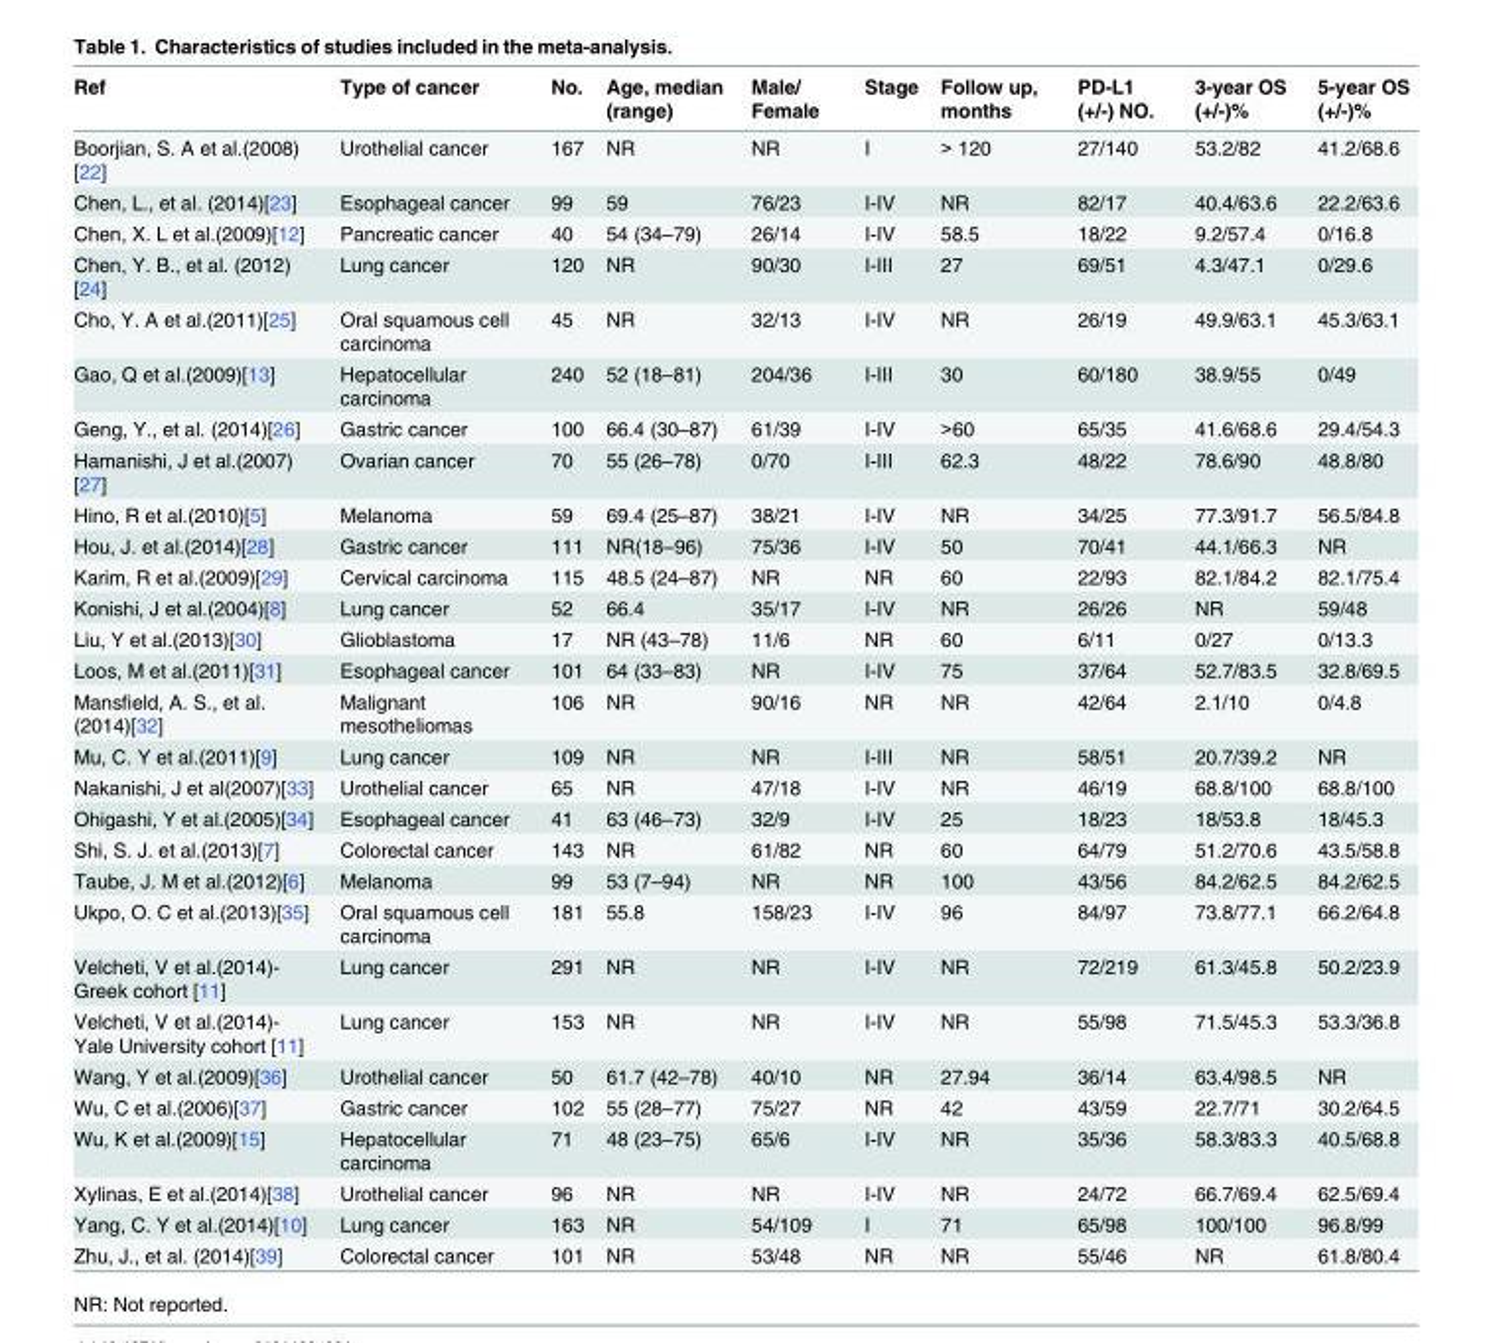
<table><thead><tr><td>Ref</td><td>Type of cancer</td><td>No.</td><td>Age, median (range)</td><td>Male/ Female</td><td>Stage</td><td>Follow up, months</td><td>PD-L1 (+/-) NO.</td><td>3-year OS (+/-)%</td><td>5-year OS (+/-)%</td></tr></thead><tbody><tr><td>Boorjian, S. A et al.(2008) [22]</td><td>Urothelial cancer</td><td>167</td><td>NR</td><td>NR</td><td>I</td><td>&gt; 120</td><td>27/140</td><td>53.2/82</td><td>41.2/68.6</td></tr><tr><td>Chen, L., et al. (2014)[23]</td><td>Esophageal cancer</td><td>99</td><td>59</td><td>76/23</td><td>I-IV</td><td>NR</td><td>82/17</td><td>40.4/63.6</td><td>22.2/63.6</td></tr><tr><td>Chen, X. L et al.(2009)[12]</td><td>Pancreatic cancer</td><td>40</td><td>54 (34–79)</td><td>26/14</td><td>I-IV</td><td>58.5</td><td>18/22</td><td>9.2/57.4</td><td>0/16.8</td></tr><tr><td>Chen, Y. B., et al. (2012) [24]</td><td>Lung cancer</td><td>120</td><td>NR</td><td>90/30</td><td>I-III</td><td>27</td><td>69/51</td><td>4.3/47.1</td><td>0/29.6</td></tr><tr><td>Cho, Y. A et al.(2011)[25]</td><td>Oral squamous cell carcinoma</td><td>45</td><td>NR</td><td>32/13</td><td>I-IV</td><td>NR</td><td>26/19</td><td>49.9/63.1</td><td>45.3/63.1</td></tr><tr><td>Gao, Q et al.(2009)[13]</td><td>Hepatocellular carcinoma</td><td>240</td><td>52 (18–81)</td><td>204/36</td><td>I-III</td><td>30</td><td>60/180</td><td>38.9/55</td><td>0/49</td></tr><tr><td>Geng, Y., et al. (2014)[26]</td><td>Gastric cancer</td><td>100</td><td>66.4 (30–87)</td><td>61/39</td><td>I-IV</td><td>&gt;60</td><td>65/35</td><td>41.6/68.6</td><td>29.4/54.3</td></tr><tr><td>Hamanishi, J et al.(2007) [27]</td><td>Ovarian cancer</td><td>70</td><td>55 (26–78)</td><td>0/70</td><td>I-III</td><td>62.3</td><td>48/22</td><td>78.6/90</td><td>48.8/80</td></tr><tr><td>Hino, R et al.(2010)[5]</td><td>Melanoma</td><td>59</td><td>69.4 (25–87)</td><td>38/21</td><td>I-IV</td><td>NR</td><td>34/25</td><td>77.3/91.7</td><td>56.5/84.8</td></tr><tr><td>Hou, J. et al.(2014)[28]</td><td>Gastric cancer</td><td>111</td><td>NR(18–96)</td><td>75/36</td><td>I-IV</td><td>50</td><td>70/41</td><td>44.1/66.3</td><td>NR</td></tr><tr><td>Karim, R et al.(2009)[29]</td><td>Cervical carcinoma</td><td>115</td><td>48.5 (24–87)</td><td>NR</td><td>NR</td><td>60</td><td>22/93</td><td>82.1/84.2</td><td>82.1/75.4</td></tr><tr><td>Konishi, J et al.(2004)[8]</td><td>Lung cancer</td><td>52</td><td>66.4</td><td>35/17</td><td>I-IV</td><td>NR</td><td>26/26</td><td>NR</td><td>59/48</td></tr><tr><td>Liu, Y et al.(2013)[30]</td><td>Glioblastoma</td><td>17</td><td>NR (43–78)</td><td>11/6</td><td>NR</td><td>60</td><td>6/11</td><td>0/27</td><td>0/13.3</td></tr><tr><td>Loos, M et al.(2011)[31]</td><td>Esophageal cancer</td><td>101</td><td>64 (33–83)</td><td>NR</td><td>I-IV</td><td>75</td><td>37/64</td><td>52.7/83.5</td><td>32.8/69.5</td></tr><tr><td>Mansfield, A. S., et al. (2014)[32]</td><td>Malignant mesotheliomas</td><td>106</td><td>NR</td><td>90/16</td><td>NR</td><td>NR</td><td>42/64</td><td>2.1/10</td><td>0/4.8</td></tr><tr><td>Mu, C. Y et al.(2011)[9]</td><td>Lung cancer</td><td>109</td><td>NR</td><td>NR</td><td>I-III</td><td>NR</td><td>58/51</td><td>20.7/39.2</td><td>NR</td></tr><tr><td>Nakanishi, J et al(2007)[33]</td><td>Urothelial cancer</td><td>65</td><td>NR</td><td>47/18</td><td>I-IV</td><td>NR</td><td>46/19</td><td>68.8/100</td><td>68.8/100</td></tr><tr><td>Ohigashi, Y et al.(2005)[34]</td><td>Esophageal cancer</td><td>41</td><td>63 (46–73)</td><td>32/9</td><td>I-IV</td><td>25</td><td>18/23</td><td>18/53.8</td><td>18/45.3</td></tr><tr><td>Shi, S. J. et al.(2013)[7]</td><td>Colorectal cancer</td><td>143</td><td>NR</td><td>61/82</td><td>NR</td><td>60</td><td>64/79</td><td>51.2/70.6</td><td>43.5/58.8</td></tr><tr><td>Taube, J. M et al.(2012)[6]</td><td>Melanoma</td><td>99</td><td>53 (7–94)</td><td>NR</td><td>NR</td><td>100</td><td>43/56</td><td>84.2/62.5</td><td>84.2/62.5</td></tr><tr><td>Ukpo, O. C et al.(2013)[35]</td><td>Oral squamous cell carcinoma</td><td>181</td><td>55.8</td><td>158/23</td><td>I-IV</td><td>96</td><td>84/97</td><td>73.8/77.1</td><td>66.2/64.8</td></tr><tr><td>Velcheti, V et al.(2014)- Greek cohort [11]</td><td>Lung cancer</td><td>291</td><td>NR</td><td>NR</td><td>I-IV</td><td>NR</td><td>72/219</td><td>61.3/45.8</td><td>50.2/23.9</td></tr><tr><td>Velcheti, V et al.(2014)- Yale University cohort [11]</td><td>Lung cancer</td><td>153</td><td>NR</td><td>NR</td><td>I-IV</td><td>NR</td><td>55/98</td><td>71.5/45.3</td><td>53.3/36.8</td></tr><tr><td>Wang, Y et al.(2009)[36]</td><td>Urothelial cancer</td><td>50</td><td>61.7 (42–78)</td><td>40/10</td><td>NR</td><td>27.94</td><td>36/14</td><td>63.4/98.5</td><td>NR</td></tr><tr><td>Wu, C et al.(2006)[37]</td><td>Gastric cancer</td><td>102</td><td>55 (28–77)</td><td>75/27</td><td>NR</td><td>42</td><td>43/59</td><td>22.7/71</td><td>30.2/64.5</td></tr><tr><td>Wu, K et al.(2009)[15]</td><td>Hepatocellular carcinoma</td><td>71</td><td>48 (23–75)</td><td>65/6</td><td>I-IV</td><td>NR</td><td>35/36</td><td>58.3/83.3</td><td>40.5/68.8</td></tr><tr><td>Xylinas, E et al.(2014)[38]</td><td>Urothelial cancer</td><td>96</td><td>NR</td><td>NR</td><td>I-IV</td><td>NR</td><td>24/72</td><td>66.7/69.4</td><td>62.5/69.4</td></tr><tr><td>Yang, C. Y et al.(2014)[10]</td><td>Lung cancer</td><td>163</td><td>NR</td><td>54/109</td><td>I</td><td>71</td><td>65/98</td><td>100/100</td><td>96.8/99</td></tr><tr><td>Zhu, J., et al. (2014)[39]</td><td>Colorectal cancer</td><td>101</td><td>NR</td><td>53/48</td><td>NR</td><td>NR</td><td>55/46</td><td>NR</td><td>61.8/80.4</td></tr></tbody></table>